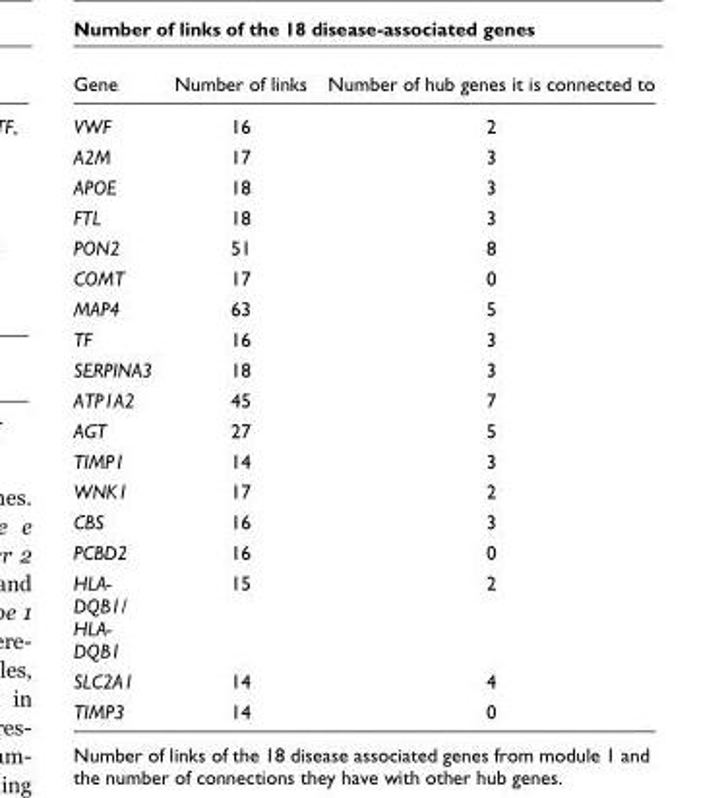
<table><thead><tr><td>Gene</td><td>Number of links</td><td>Number of hub genes it is connected to</td></tr></thead><tbody><tr><td>VWF</td><td>16</td><td>2</td></tr><tr><td>A2M</td><td>17</td><td>3</td></tr><tr><td>APOE</td><td>18</td><td>3</td></tr><tr><td>FTL</td><td>18</td><td>3</td></tr><tr><td>PON2</td><td>51</td><td>8</td></tr><tr><td>COMT</td><td>17</td><td>0</td></tr><tr><td>MAP4</td><td>63</td><td>5</td></tr><tr><td>TF</td><td>16</td><td>3</td></tr><tr><td>SERPINA3</td><td>18</td><td>3</td></tr><tr><td>ATP1A2</td><td>45</td><td>7</td></tr><tr><td>AGT</td><td>27</td><td>5</td></tr><tr><td>TIMP1</td><td>14</td><td>3</td></tr><tr><td>WNK1</td><td>17</td><td>2</td></tr><tr><td>CBS</td><td>16</td><td>3</td></tr><tr><td>PCBD2</td><td>16</td><td>0</td></tr><tr><td>HLA- DQB1/ HLA- DQB1</td><td>15</td><td>2</td></tr><tr><td>SLC2A1</td><td>14</td><td>4</td></tr><tr><td>TIMP3</td><td>14</td><td>0</td></tr></tbody></table>